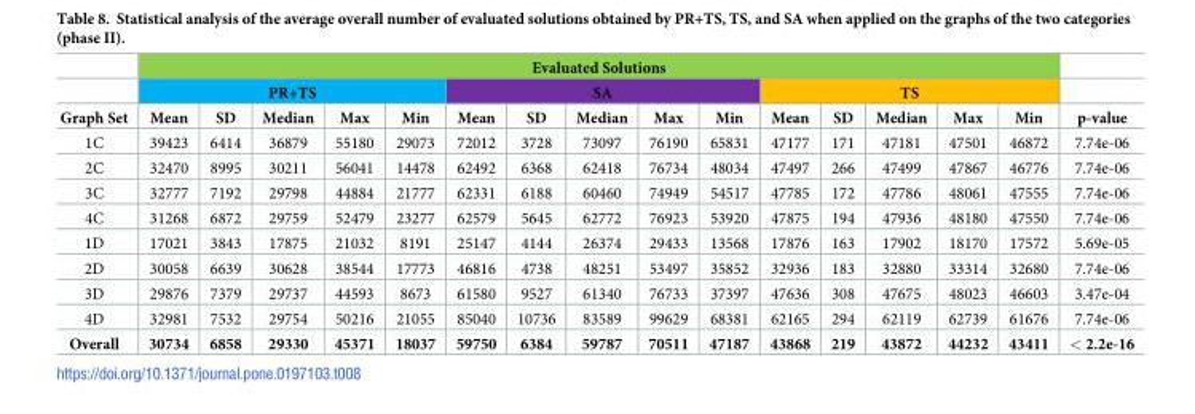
<table><thead><tr><td rowspan="3">Graph Set</td><td colspan="15">Evaluated Solutions</td><td rowspan="3">p-value</td></tr><tr><td colspan="5">PR+TS</td><td colspan="5">SA</td><td colspan="5">TS</td></tr><tr><td>Mean</td><td>SD</td><td>Median</td><td>Max</td><td>Min</td><td>Mean</td><td>SD</td><td>Median</td><td>Max</td><td>Min</td><td>Mean</td><td>SD</td><td>Median</td><td>Max</td><td>Min</td></tr></thead><tbody><tr><td>1C</td><td>39423</td><td>6414</td><td>36879</td><td>55180</td><td>29073</td><td>72012</td><td>3728</td><td>73097</td><td>76190</td><td>65831</td><td>47177</td><td>171</td><td>47181</td><td>47501</td><td>46872</td><td>7.74e-06</td></tr><tr><td>2C</td><td>32470</td><td>8995</td><td>30211</td><td>56041</td><td>14478</td><td>62492</td><td>6368</td><td>62418</td><td>76734</td><td>48034</td><td>47497</td><td>266</td><td>47499</td><td>47867</td><td>46776</td><td>7.74e-06</td></tr><tr><td>3C</td><td>32777</td><td>7192</td><td>29798</td><td>44884</td><td>21777</td><td>62331</td><td>6188</td><td>60460</td><td>74949</td><td>54517</td><td>47785</td><td>172</td><td>47786</td><td>48061</td><td>47555</td><td>7.74e-06</td></tr><tr><td>4C</td><td>31268</td><td>6872</td><td>29759</td><td>52479</td><td>23277</td><td>62579</td><td>5645</td><td>62772</td><td>76923</td><td>53920</td><td>47875</td><td>194</td><td>47936</td><td>48180</td><td>47550</td><td>7.74e-06</td></tr><tr><td>1D</td><td>17021</td><td>3843</td><td>17875</td><td>21032</td><td>8191</td><td>25147</td><td>4144</td><td>26374</td><td>29433</td><td>13568</td><td>17876</td><td>163</td><td>17902</td><td>18170</td><td>17572</td><td>5.69e-05</td></tr><tr><td>2D</td><td>30058</td><td>6639</td><td>30628</td><td>38544</td><td>17773</td><td>46816</td><td>4738</td><td>48251</td><td>53497</td><td>35852</td><td>32936</td><td>183</td><td>32880</td><td>33314</td><td>32680</td><td>7.74e-06</td></tr><tr><td>3D</td><td>29876</td><td>7379</td><td>29737</td><td>44593</td><td>8673</td><td>61580</td><td>9527</td><td>61340</td><td>76733</td><td>37397</td><td>47636</td><td>308</td><td>47675</td><td>48023</td><td>46603</td><td>3.47e-04</td></tr><tr><td>4D</td><td>32981</td><td>7532</td><td>29754</td><td>50216</td><td>21055</td><td>85040</td><td>10736</td><td>83589</td><td>99629</td><td>68381</td><td>62165</td><td>294</td><td>62119</td><td>62739</td><td>61676</td><td>7.74e-06</td></tr><tr><td>Overall</td><td>30734</td><td>6858</td><td>29330</td><td>45371</td><td>18037</td><td>59750</td><td>6384</td><td>59787</td><td>70511</td><td>47187</td><td>43868</td><td>219</td><td>43872</td><td>44232</td><td>43411</td><td>&lt; 2.2e-16</td></tr></tbody></table>